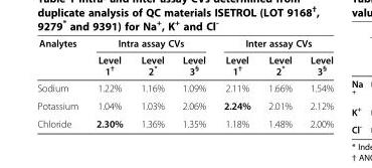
<table><thead><tr><td rowspan="2">Analytes</td><td colspan="3">Intra assay CVs</td><td colspan="3">Inter assay CVs</td></tr><tr><td>Level 1<sup>†</sup></td><td>Level 2*</td><td>Level 3<sup>§</sup></td><td>Level 1<sup>†</sup></td><td>Level 2*</td><td>Level 3<sup>§</sup></td></tr></thead><tbody><tr><td>Sodium</td><td>1.22%</td><td>1.16%</td><td>1.09%</td><td>2.11%</td><td>1.66%</td><td>1.54%</td></tr><tr><td>Potassium</td><td>1.04%</td><td>1.03%</td><td>2.06%</td><td>2.24%</td><td>2.01%</td><td>2.12%</td></tr><tr><td>Chloride</td><td>2.30%</td><td>1.36%</td><td>1.35%</td><td>1.18%</td><td>1.48%</td><td>2.00%</td></tr></tbody></table>